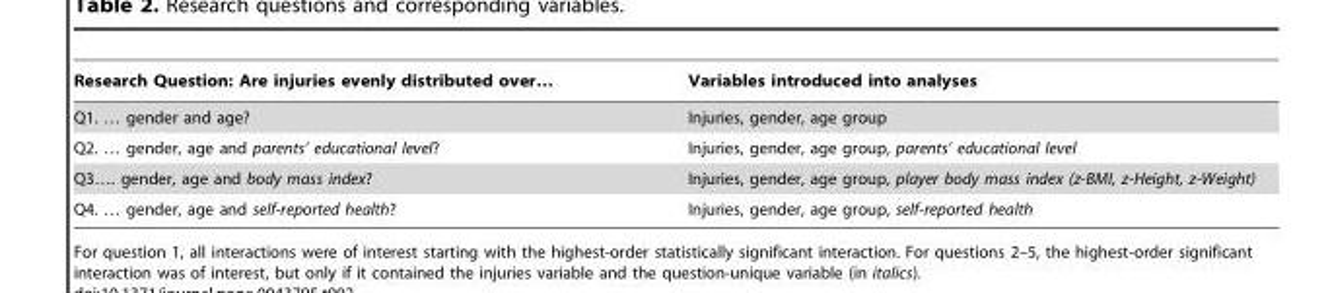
<table><thead><tr><td>Research Question: Are injuries evenly distributed over…</td><td>Variables introduced into analyses</td></tr></thead><tbody><tr><td>Q1. … gender and age?</td><td>Injuries, gender, age group</td></tr><tr><td>Q2. … gender, age and parents’ educational level?</td><td>Injuries, gender, age group, parents’ educational level</td></tr><tr><td>Q3…. gender, age and body mass index?</td><td>Injuries, gender, age group, player body mass index (z-BMI, z-Height, z-Weight)</td></tr><tr><td>Q4. … gender, age and self-reported health?</td><td>Injuries, gender, age group, self-reported health</td></tr></tbody></table>